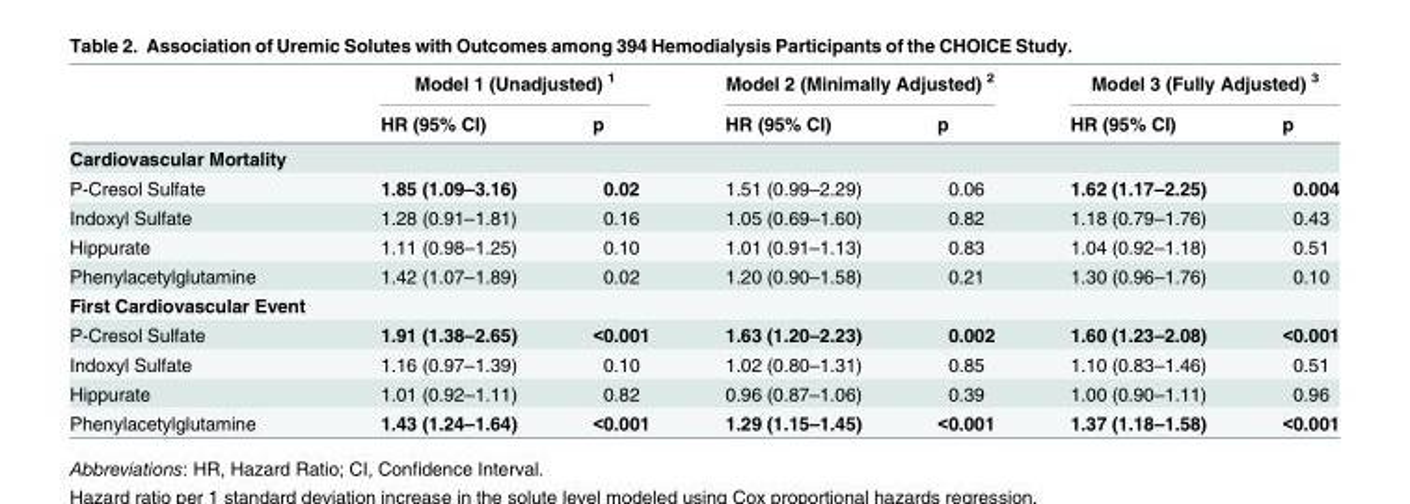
<table><thead><tr><td rowspan="2"></td><td colspan="2">Model 1 (Unadjusted) <sup>1</sup></td><td colspan="2">Model 2 (Minimally Adjusted) <sup>2</sup></td><td colspan="2">Model 3 (Fully Adjusted) <sup>3</sup></td></tr><tr><td>HR (95% CI)</td><td>p</td><td>HR (95% CI)</td><td>p</td><td>HR (95% CI)</td><td>p</td></tr></thead><tbody><tr><td colspan="7">Cardiovascular Mortality</td></tr><tr><td>P-Cresol Sulfate</td><td>1.85 (1.09–3.16)</td><td>0.02</td><td>1.51 (0.99–2.29)</td><td>0.06</td><td>1.62 (1.17–2.25)</td><td>0.004</td></tr><tr><td>Indoxyl Sulfate</td><td>1.28 (0.91–1.81)</td><td>0.16</td><td>1.05 (0.69–1.60)</td><td>0.82</td><td>1.18 (0.79–1.76)</td><td>0.43</td></tr><tr><td>Hippurate</td><td>1.11 (0.98–1.25)</td><td>0.10</td><td>1.01 (0.91–1.13)</td><td>0.83</td><td>1.04 (0.92–1.18)</td><td>0.51</td></tr><tr><td>Phenylacetylglutamine</td><td>1.42 (1.07–1.89)</td><td>0.02</td><td>1.20 (0.90–1.58)</td><td>0.21</td><td>1.30 (0.96–1.76)</td><td>0.10</td></tr><tr><td colspan="7">First Cardiovascular Event</td></tr><tr><td>P-Cresol Sulfate</td><td>1.91 (1.38–2.65)</td><td>&lt;0.001</td><td>1.63 (1.20–2.23)</td><td>0.002</td><td>1.60 (1.23–2.08)</td><td>&lt;0.001</td></tr><tr><td>Indoxyl Sulfate</td><td>1.16 (0.97–1.39)</td><td>0.10</td><td>1.02 (0.80–1.31)</td><td>0.85</td><td>1.10 (0.83–1.46)</td><td>0.51</td></tr><tr><td>Hippurate</td><td>1.01 (0.92–1.11)</td><td>0.82</td><td>0.96 (0.87–1.06)</td><td>0.39</td><td>1.00 (0.90–1.11)</td><td>0.96</td></tr><tr><td>Phenylacetylglutamine</td><td>1.43 (1.24–1.64)</td><td>&lt;0.001</td><td>1.29 (1.15–1.45)</td><td>&lt;0.001</td><td>1.37 (1.18–1.58)</td><td>&lt;0.001</td></tr></tbody></table>